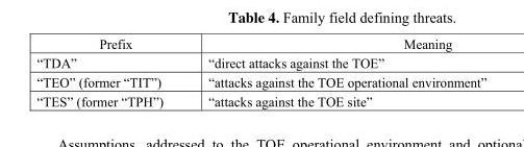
<table><thead><tr><td>Prefix</td><td>Meaning</td></tr></thead><tbody><tr><td>“TDA”</td><td>“direct attacks against the TOE”</td></tr><tr><td>“TEO” (former “TIT”)</td><td>“attacks against the TOE operational environment”</td></tr><tr><td>“TES” (former “TPH”)</td><td>“attacks against the TOE site”</td></tr></tbody></table>